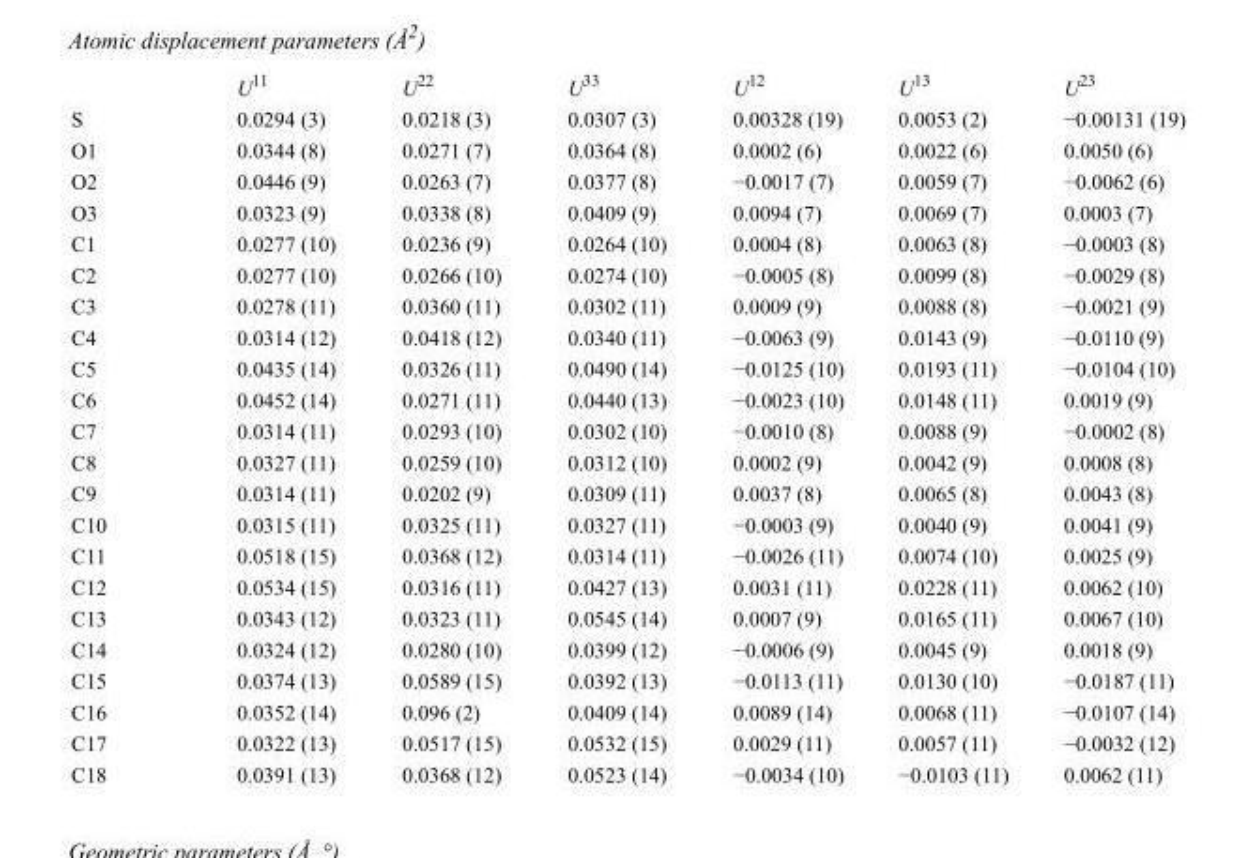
<table><thead><tr><td></td><td>U<sup>11</sup></td><td>U<sup>22</sup></td><td>U<sup>33</sup></td><td>U<sup>12</sup></td><td>U<sup>13</sup></td><td>U<sup>23</sup></td></tr></thead><tbody><tr><td>S</td><td>0.0294 (3)</td><td>0.0218 (3)</td><td>0.0307 (3)</td><td>0.00328 (19)</td><td>0.0053 (2)</td><td>−0.00131 (19)</td></tr><tr><td>O1</td><td>0.0344 (8)</td><td>0.0271 (7)</td><td>0.0364 (8)</td><td>0.0002 (6)</td><td>0.0022 (6)</td><td>0.0050 (6)</td></tr><tr><td>O2</td><td>0.0446 (9)</td><td>0.0263 (7)</td><td>0.0377 (8)</td><td>−0.0017 (7)</td><td>0.0059 (7)</td><td>−0.0062 (6)</td></tr><tr><td>O3</td><td>0.0323 (9)</td><td>0.0338 (8)</td><td>0.0409 (9)</td><td>0.0094 (7)</td><td>0.0069 (7)</td><td>0.0003 (7)</td></tr><tr><td>C1</td><td>0.0277 (10)</td><td>0.0236 (9)</td><td>0.0264 (10)</td><td>0.0004 (8)</td><td>0.0063 (8)</td><td>−0.0003 (8)</td></tr><tr><td>C2</td><td>0.0277 (10)</td><td>0.0266 (10)</td><td>0.0274 (10)</td><td>−0.0005 (8)</td><td>0.0099 (8)</td><td>−0.0029 (8)</td></tr><tr><td>C3</td><td>0.0278 (11)</td><td>0.0360 (11)</td><td>0.0302 (11)</td><td>0.0009 (9)</td><td>0.0088 (8)</td><td>−0.0021 (9)</td></tr><tr><td>C4</td><td>0.0314 (12)</td><td>0.0418 (12)</td><td>0.0340 (11)</td><td>−0.0063 (9)</td><td>0.0143 (9)</td><td>−0.0110 (9)</td></tr><tr><td>C5</td><td>0.0435 (14)</td><td>0.0326 (11)</td><td>0.0490 (14)</td><td>−0.0125 (10)</td><td>0.0193 (11)</td><td>−0.0104 (10)</td></tr><tr><td>C6</td><td>0.0452 (14)</td><td>0.0271 (11)</td><td>0.0440 (13)</td><td>−0.0023 (10)</td><td>0.0148 (11)</td><td>0.0019 (9)</td></tr><tr><td>C7</td><td>0.0314 (11)</td><td>0.0293 (10)</td><td>0.0302 (10)</td><td>−0.0010 (8)</td><td>0.0088 (9)</td><td>−0.0002 (8)</td></tr><tr><td>C8</td><td>0.0327 (11)</td><td>0.0259 (10)</td><td>0.0312 (10)</td><td>0.0002 (9)</td><td>0.0042 (9)</td><td>0.0008 (8)</td></tr><tr><td>C9</td><td>0.0314 (11)</td><td>0.0202 (9)</td><td>0.0309 (11)</td><td>0.0037 (8)</td><td>0.0065 (8)</td><td>0.0043 (8)</td></tr><tr><td>C10</td><td>0.0315 (11)</td><td>0.0325 (11)</td><td>0.0327 (11)</td><td>−0.0003 (9)</td><td>0.0040 (9)</td><td>0.0041 (9)</td></tr><tr><td>C11</td><td>0.0518 (15)</td><td>0.0368 (12)</td><td>0.0314 (11)</td><td>−0.0026 (11)</td><td>0.0074 (10)</td><td>0.0025 (9)</td></tr><tr><td>C12</td><td>0.0534 (15)</td><td>0.0316 (11)</td><td>0.0427 (13)</td><td>0.0031 (11)</td><td>0.0228 (11)</td><td>0.0062 (10)</td></tr><tr><td>C13</td><td>0.0343 (12)</td><td>0.0323 (11)</td><td>0.0545 (14)</td><td>0.0007 (9)</td><td>0.0165 (11)</td><td>0.0067 (10)</td></tr><tr><td>C14</td><td>0.0324 (12)</td><td>0.0280 (10)</td><td>0.0399 (12)</td><td>−0.0006 (9)</td><td>0.0045 (9)</td><td>0.0018 (9)</td></tr><tr><td>C15</td><td>0.0374 (13)</td><td>0.0589 (15)</td><td>0.0392 (13)</td><td>−0.0113 (11)</td><td>0.0130 (10)</td><td>−0.0187 (11)</td></tr><tr><td>C16</td><td>0.0352 (14)</td><td>0.096 (2)</td><td>0.0409 (14)</td><td>0.0089 (14)</td><td>0.0068 (11)</td><td>−0.0107 (14)</td></tr><tr><td>C17</td><td>0.0322 (13)</td><td>0.0517 (15)</td><td>0.0532 (15)</td><td>0.0029 (11)</td><td>0.0057 (11)</td><td>−0.0032 (12)</td></tr><tr><td>C18</td><td>0.0391 (13)</td><td>0.0368 (12)</td><td>0.0523 (14)</td><td>−0.0034 (10)</td><td>−0.0103 (11)</td><td>0.0062 (11)</td></tr></tbody></table>